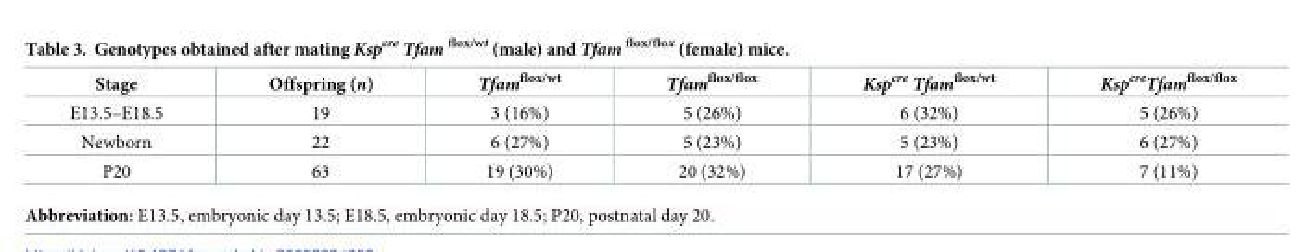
<table><thead><tr><td>Stage</td><td>Offspring (n)</td><td>Tfam<sup>flox/wt</sup></td><td>Tfam<sup>flox/flox</sup></td><td>Ksp<sup>cre</sup> Tfam<sup>flox/wt</sup></td><td>Ksp<sup>cre</sup>Tfam<sup>flox/flox</sup></td></tr></thead><tbody><tr><td>E13.5–E18.5</td><td>19</td><td>3 (16%)</td><td>5 (26%)</td><td>6 (32%)</td><td>5 (26%)</td></tr><tr><td>Newborn</td><td>22</td><td>6 (27%)</td><td>5 (23%)</td><td>5 (23%)</td><td>6 (27%)</td></tr><tr><td>P20</td><td>63</td><td>19 (30%)</td><td>20 (32%)</td><td>17 (27%)</td><td>7 (11%)</td></tr></tbody></table>